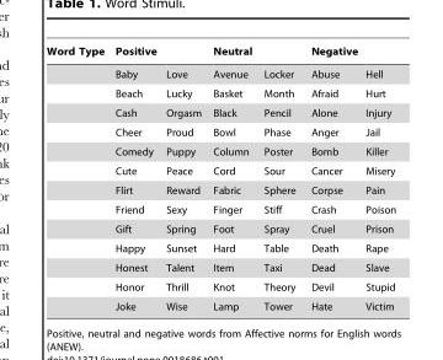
<table><thead><tr><td>Word Type</td><td>Positive</td><td></td><td>Neutral</td><td></td><td>Negative</td><td></td></tr></thead><tbody><tr><td></td><td>Baby</td><td>Love</td><td>Avenue</td><td>Locker</td><td>Abuse</td><td>Hell</td></tr><tr><td></td><td>Beach</td><td>Lucky</td><td>Basket</td><td>Month</td><td>Afraid</td><td>Hurt</td></tr><tr><td></td><td>Cash</td><td>Orgasm</td><td>Black</td><td>Pencil</td><td>Alone</td><td>Injury</td></tr><tr><td></td><td>Cheer</td><td>Proud</td><td>Bowl</td><td>Phase</td><td>Anger</td><td>Jail</td></tr><tr><td></td><td>Comedy</td><td>Puppy</td><td>Column</td><td>Poster</td><td>Bomb</td><td>Killer</td></tr><tr><td></td><td>Cute</td><td>Peace</td><td>Cord</td><td>Sour</td><td>Cancer</td><td>Misery</td></tr><tr><td></td><td>Flirt</td><td>Reward</td><td>Fabric</td><td>Sphere</td><td>Corpse</td><td>Pain</td></tr><tr><td></td><td>Friend</td><td>Sexy</td><td>Finger</td><td>Stiff</td><td>Crash</td><td>Poison</td></tr><tr><td></td><td>Gift</td><td>Spring</td><td>Foot</td><td>Spray</td><td>Cruel</td><td>Prison</td></tr><tr><td></td><td>Happy</td><td>Sunset</td><td>Hard</td><td>Table</td><td>Death</td><td>Rape</td></tr><tr><td></td><td>Honest</td><td>Talent</td><td>Item</td><td>Taxi</td><td>Dead</td><td>Slave</td></tr><tr><td></td><td>Honor</td><td>Thrill</td><td>Knot</td><td>Theory</td><td>Devil</td><td>Stupid</td></tr><tr><td></td><td>Joke</td><td>Wise</td><td>Lamp</td><td>Tower</td><td>Hate</td><td>Victim</td></tr></tbody></table>